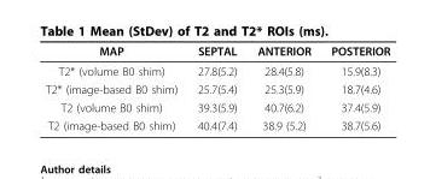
<table><thead><tr><td>MAP</td><td>SEPTAL</td><td>ANTERIOR</td><td>POSTERIOR</td></tr></thead><tbody><tr><td>T2* (volume B0 shim)</td><td>27.8(5.2)</td><td>28.4(5.8)</td><td>15.9(8.3)</td></tr><tr><td>T2* (image-based B0 shim)</td><td>25.7(5.4)</td><td>25.3(5.9)</td><td>18.7(4.6)</td></tr><tr><td>T2 (volume B0 shim)</td><td>39.3(5.9)</td><td>40.7(6.2)</td><td>37.4(5.9)</td></tr><tr><td>T2 (image-based B0 shim)</td><td>40.4(7.4)</td><td>38.9 (5.2)</td><td>38.7(5.6)</td></tr></tbody></table>